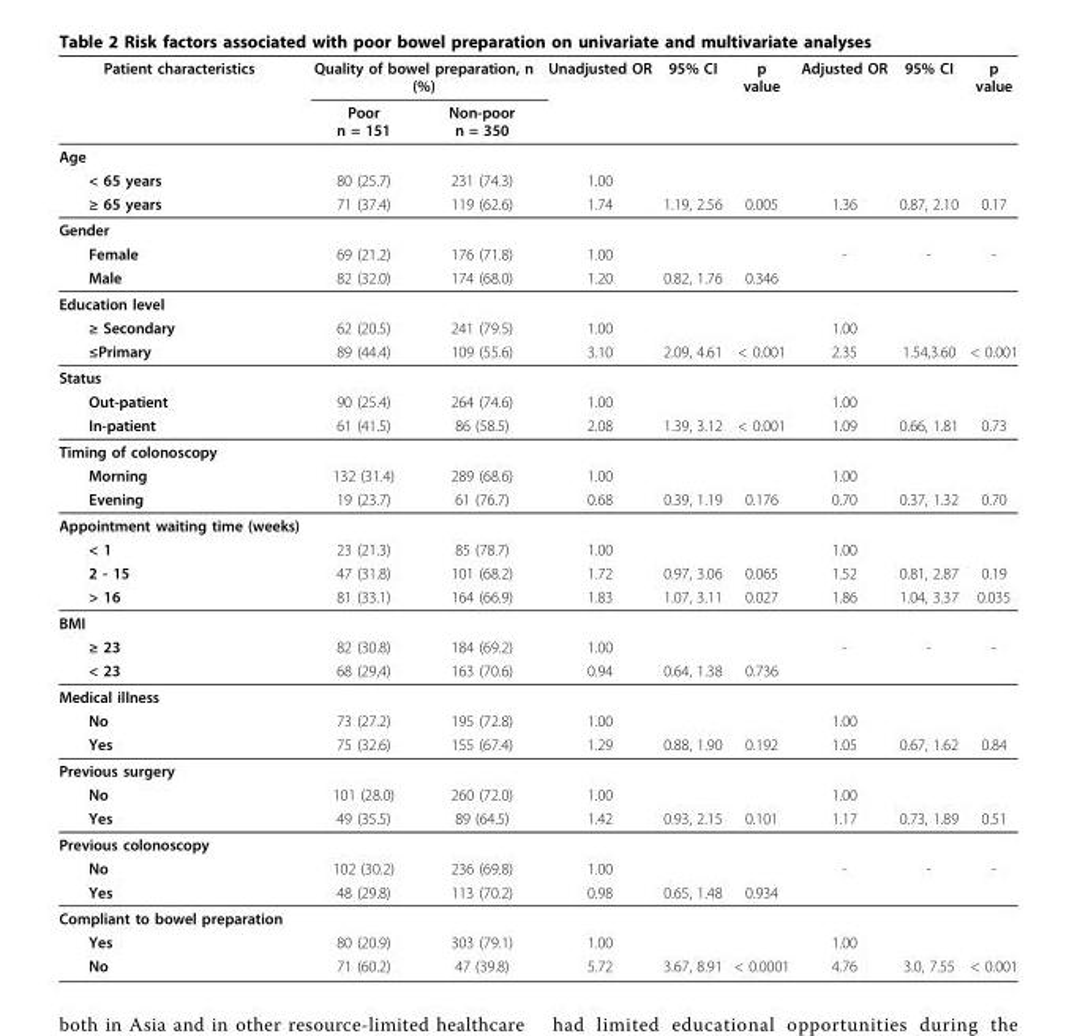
<table><thead><tr><td rowspan="2">Patient characteristics</td><td colspan="2">Quality of bowel preparation, n (%)</td><td rowspan="2">Unadjusted OR</td><td rowspan="2">95% CI</td><td rowspan="2">p value</td><td rowspan="2">Adjusted OR</td><td rowspan="2">95% CI</td><td rowspan="2">p value</td></tr><tr><td>Poor n = 151</td><td>Non-poor n = 350</td></tr></thead><tbody><tr><td colspan="9">Age</td></tr><tr><td>&lt; 65 years</td><td>80 (25.7)</td><td>231 (74.3)</td><td>1.00</td><td></td><td></td><td></td><td></td><td></td></tr><tr><td>≥ 65 years</td><td>71 (37.4)</td><td>119 (62.6)</td><td>1.74</td><td>1.19, 2.56</td><td>0.005</td><td>1.36</td><td>0.87, 2.10</td><td>0.17</td></tr><tr><td colspan="9">Gender</td></tr><tr><td>Female</td><td>69 (21.2)</td><td>176 (71.8)</td><td>1.00</td><td></td><td></td><td>-</td><td>-</td><td>-</td></tr><tr><td>Male</td><td>82 (32.0)</td><td>174 (68.0)</td><td>1.20</td><td>0.82, 1.76</td><td>0.346</td><td></td><td></td><td></td></tr><tr><td colspan="9">Education level</td></tr><tr><td>≥ Secondary</td><td>62 (20.5)</td><td>241 (79.5)</td><td>1.00</td><td></td><td></td><td>1.00</td><td></td><td></td></tr><tr><td>≤Primary</td><td>89 (44.4)</td><td>109 (55.6)</td><td>3.10</td><td>2.09, 4.61</td><td>&lt; 0.001</td><td>2.35</td><td>1.54,3.60</td><td>&lt; 0.001</td></tr><tr><td colspan="9">Status</td></tr><tr><td>Out-patient</td><td>90 (25.4)</td><td>264 (74.6)</td><td>1.00</td><td></td><td></td><td>1.00</td><td></td><td></td></tr><tr><td>In-patient</td><td>61 (41.5)</td><td>86 (58.5)</td><td>2.08</td><td>1.39, 3.12</td><td>&lt; 0.001</td><td>1.09</td><td>0.66, 1.81</td><td>0.73</td></tr><tr><td colspan="9">Timing of colonoscopy</td></tr><tr><td>Morning</td><td>132 (31.4)</td><td>289 (68.6)</td><td>1.00</td><td></td><td></td><td>1.00</td><td></td><td></td></tr><tr><td>Evening</td><td>19 (23.7)</td><td>61 (76.7)</td><td>0.68</td><td>0.39, 1.19</td><td>0.176</td><td>0.70</td><td>0.37, 1.32</td><td>0.70</td></tr><tr><td colspan="9">Appointment waiting time (weeks)</td></tr><tr><td>&lt; 1</td><td>23 (21.3)</td><td>85 (78.7)</td><td>1.00</td><td></td><td></td><td>1.00</td><td></td><td></td></tr><tr><td>2 - 15</td><td>47 (31.8)</td><td>101 (68.2)</td><td>1.72</td><td>0.97, 3.06</td><td>0.065</td><td>1.52</td><td>0.81, 2.87</td><td>0.19</td></tr><tr><td>&gt; 16</td><td>81 (33.1)</td><td>164 (66.9)</td><td>1.83</td><td>1.07, 3.11</td><td>0.027</td><td>1.86</td><td>1.04, 3.37</td><td>0.035</td></tr><tr><td colspan="9">BMI</td></tr><tr><td>≥ 23</td><td>82 (30.8)</td><td>184 (69.2)</td><td>1.00</td><td></td><td></td><td>-</td><td>-</td><td>-</td></tr><tr><td>&lt; 23</td><td>68 (29,4)</td><td>163 (70.6)</td><td>0.94</td><td>0.64, 1.38</td><td>0.736</td><td></td><td></td><td></td></tr><tr><td colspan="9">Medical illness</td></tr><tr><td>No</td><td>73 (27.2)</td><td>195 (72.8)</td><td>1.00</td><td></td><td></td><td>1.00</td><td></td><td></td></tr><tr><td>Yes</td><td>75 (32.6)</td><td>155 (67.4)</td><td>1.29</td><td>0.88, 1.90</td><td>0.192</td><td>1.05</td><td>0.67, 1.62</td><td>0.84</td></tr><tr><td colspan="9">Previous surgery</td></tr><tr><td>No</td><td>101 (28.0)</td><td>260 (72.0)</td><td>1.00</td><td></td><td></td><td>1.00</td><td></td><td></td></tr><tr><td>Yes</td><td>49 (35.5)</td><td>89 (64.5)</td><td>1.42</td><td>0.93, 2.15</td><td>0.101</td><td>1.17</td><td>0.73, 1.89</td><td>0.51</td></tr><tr><td colspan="9">Previous colonoscopy</td></tr><tr><td>No</td><td>102 (30.2)</td><td>236 (69.8)</td><td>1.00</td><td></td><td></td><td>-</td><td>-</td><td>-</td></tr><tr><td>Yes</td><td>48 (29.8)</td><td>113 (70.2)</td><td>0.98</td><td>0.65, 1.48</td><td>0.934</td><td></td><td></td><td></td></tr><tr><td colspan="9">Compliant to bowel preparation</td></tr><tr><td>Yes</td><td>80 (20.9)</td><td>303 (79.1)</td><td>1.00</td><td></td><td></td><td>1.00</td><td></td><td></td></tr><tr><td>No</td><td>71 (60.2)</td><td>47 (39.8)</td><td>5.72</td><td>3.67, 8.91</td><td>&lt; 0.0001</td><td>4.76</td><td>3.0, 7.55</td><td>&lt; 0.001</td></tr></tbody></table>